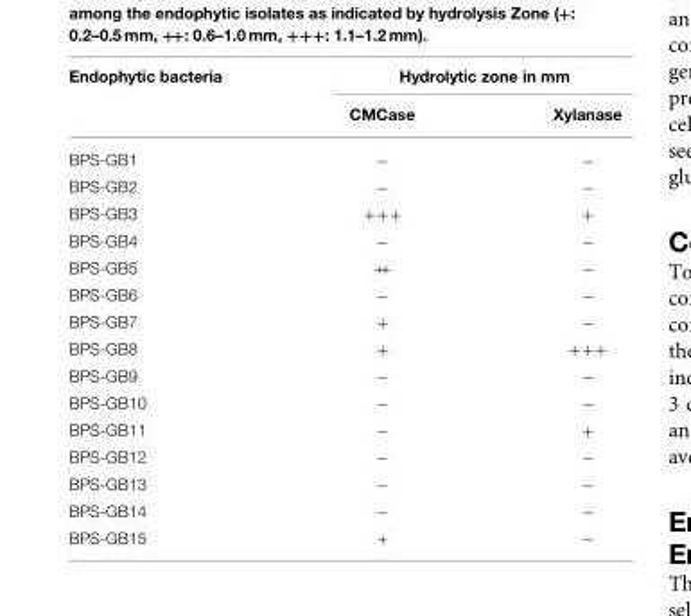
<table><thead><tr><td rowspan="2">Endophytic bacteria</td><td colspan="2">Hydrolytic zone in mm</td></tr><tr><td>CMCase</td><td>Xylanase</td></tr></thead><tbody><tr><td>BPS-GB1</td><td>−</td><td>−</td></tr><tr><td>BPS-GB2</td><td>−</td><td>−</td></tr><tr><td>BPS-GB3</td><td>+++</td><td>+</td></tr><tr><td>BPS-GB4</td><td>−</td><td>−</td></tr><tr><td>BPS-GB5</td><td>++</td><td>−</td></tr><tr><td>BPS-GB6</td><td>−</td><td>−</td></tr><tr><td>BPS-GB7</td><td>+</td><td>−</td></tr><tr><td>BPS-GB8</td><td>+</td><td>+++</td></tr><tr><td>BPS-GB9</td><td>−</td><td>−</td></tr><tr><td>BPS-GB10</td><td>−</td><td>−</td></tr><tr><td>BPS-GB11</td><td>−</td><td>+</td></tr><tr><td>BPS-GB12</td><td>−</td><td>−</td></tr><tr><td>BPS-GB13</td><td>−</td><td>−</td></tr><tr><td>BPS-GB14</td><td>−</td><td>−</td></tr><tr><td>BPS-GB15</td><td>+</td><td>−</td></tr></tbody></table>